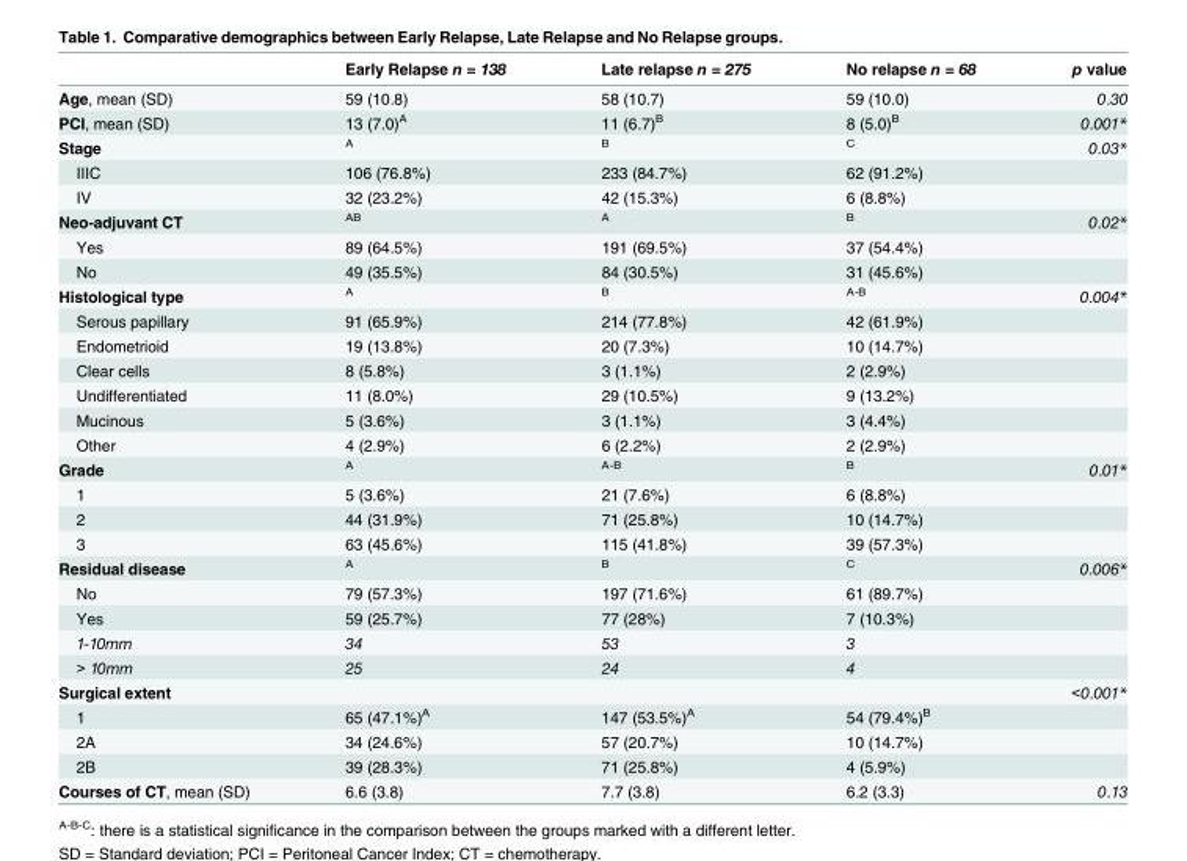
<table><thead><tr><td></td><td>Early Relapse n = 138</td><td>Late relapse n = 275</td><td>No relapse n = 68</td><td>p value</td></tr></thead><tbody><tr><td>Age, mean (SD)</td><td>59 (10.8)</td><td>58 (10.7)</td><td>59 (10.0)</td><td>0.30</td></tr><tr><td>PCI, mean (SD)</td><td>13 (7.0)<sup>A</sup></td><td>11 (6.7)<sup>B</sup></td><td>8 (5.0)<sup>B</sup></td><td>0.001*</td></tr><tr><td>Stage</td><td><sup>A</sup></td><td><sup>B</sup></td><td><sup>C</sup></td><td>0.03*</td></tr><tr><td>IIIC</td><td>106 (76.8%)</td><td>233 (84.7%)</td><td>62 (91.2%)</td><td></td></tr><tr><td>IV</td><td>32 (23.2%)</td><td>42 (15.3%)</td><td>6 (8.8%)</td><td></td></tr><tr><td>Neo-adjuvant CT</td><td><sup>AB</sup></td><td><sup>A</sup></td><td><sup>B</sup></td><td>0.02*</td></tr><tr><td>Yes</td><td>89 (64.5%)</td><td>191 (69.5%)</td><td>37 (54.4%)</td><td></td></tr><tr><td>No</td><td>49 (35.5%)</td><td>84 (30.5%)</td><td>31 (45.6%)</td><td></td></tr><tr><td>Histological type</td><td><sup>A</sup></td><td><sup>B</sup></td><td><sup>A-B</sup></td><td>0.004*</td></tr><tr><td>Serous papillary</td><td>91 (65.9%)</td><td>214 (77.8%)</td><td>42 (61.9%)</td><td></td></tr><tr><td>Endometrioid</td><td>19 (13.8%)</td><td>20 (7.3%)</td><td>10 (14.7%)</td><td></td></tr><tr><td>Clear cells</td><td>8 (5.8%)</td><td>3 (1.1%)</td><td>2 (2.9%)</td><td></td></tr><tr><td>Undifferentiated</td><td>11 (8.0%)</td><td>29 (10.5%)</td><td>9 (13.2%)</td><td></td></tr><tr><td>Mucinous</td><td>5 (3.6%)</td><td>3 (1.1%)</td><td>3 (4.4%)</td><td></td></tr><tr><td>Other</td><td>4 (2.9%)</td><td>6 (2.2%)</td><td>2 (2.9%)</td><td></td></tr><tr><td>Grade</td><td><sup>A</sup></td><td><sup>A-B</sup></td><td><sup>B</sup></td><td>0.01*</td></tr><tr><td>1</td><td>5 (3.6%)</td><td>21 (7.6%)</td><td>6 (8.8%)</td><td></td></tr><tr><td>2</td><td>44 (31.9%)</td><td>71 (25.8%)</td><td>10 (14.7%)</td><td></td></tr><tr><td>3</td><td>63 (45.6%)</td><td>115 (41.8%)</td><td>39 (57.3%)</td><td></td></tr><tr><td>Residual disease</td><td><sup>A</sup></td><td><sup>B</sup></td><td><sup>C</sup></td><td>0.006*</td></tr><tr><td>No</td><td>79 (57.3%)</td><td>197 (71.6%)</td><td>61 (89.7%)</td><td></td></tr><tr><td>Yes</td><td>59 (25.7%)</td><td>77 (28%)</td><td>7 (10.3%)</td><td></td></tr><tr><td>1-10mm</td><td>34</td><td>53</td><td>3</td><td></td></tr><tr><td>&gt; 10mm</td><td>25</td><td>24</td><td>4</td><td></td></tr><tr><td>Surgical extent</td><td></td><td></td><td></td><td>&lt;0.001*</td></tr><tr><td>1</td><td>65 (47.1%)<sup>A</sup></td><td>147 (53.5%)<sup>A</sup></td><td>54 (79.4%)<sup>B</sup></td><td></td></tr><tr><td>2A</td><td>34 (24.6%)</td><td>57 (20.7%)</td><td>10 (14.7%)</td><td></td></tr><tr><td>2B</td><td>39 (28.3%)</td><td>71 (25.8%)</td><td>4 (5.9%)</td><td></td></tr><tr><td>Courses of CT, mean (SD)</td><td>6.6 (3.8)</td><td>7.7 (3.8)</td><td>6.2 (3.3)</td><td>0.13</td></tr></tbody></table>